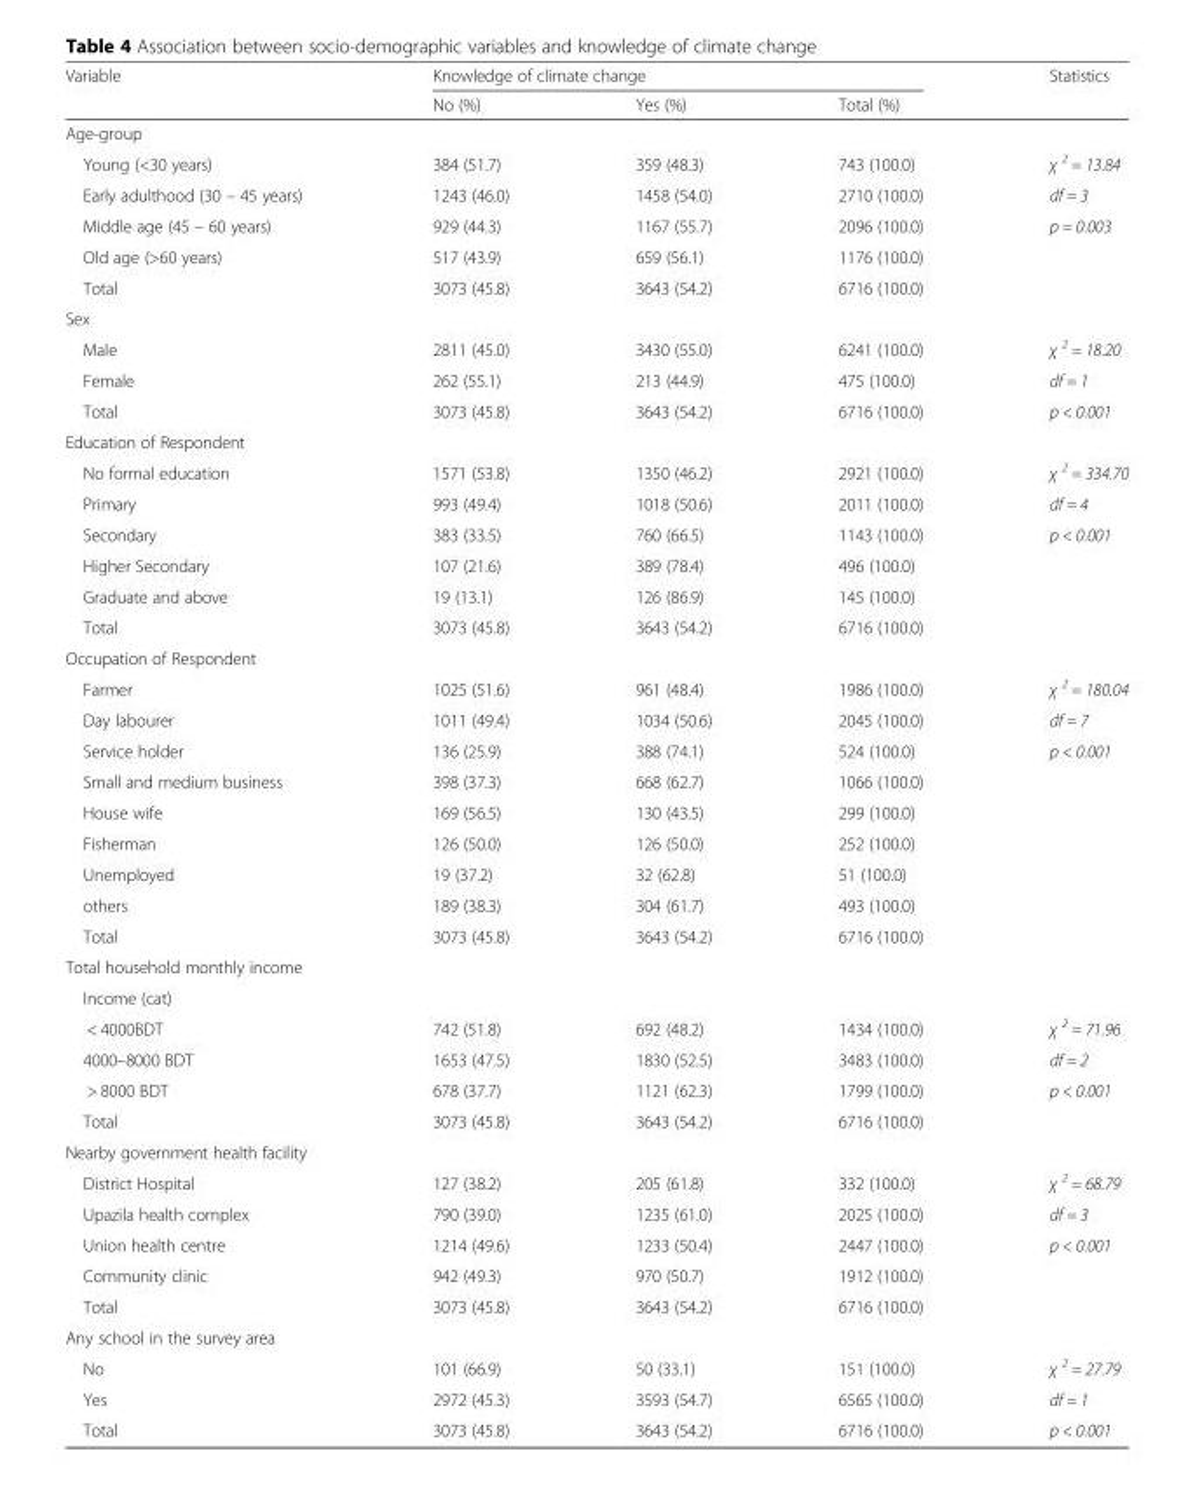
<table><thead><tr><td rowspan="2">Variable</td><td colspan="3">Knowledge of climate change</td><td rowspan="2">Statistics</td></tr><tr><td>No (%)</td><td>Yes (%)</td><td>Total (%)</td></tr></thead><tbody><tr><td colspan="5">Age-group</td></tr><tr><td>Young (&lt;30 years)</td><td>384 (51.7)</td><td>359 (48.3)</td><td>743 (100.0)</td><td>χ <sup>2</sup> = 13.84</td></tr><tr><td>Early adulthood (30 – 45 years)</td><td>1243 (46.0)</td><td>1458 (54.0)</td><td>2710 (100.0)</td><td>df = 3</td></tr><tr><td>Middle age (45 – 60 years)</td><td>929 (44.3)</td><td>1167 (55.7)</td><td>2096 (100.0)</td><td>p = 0.003</td></tr><tr><td>Old age (&gt;60 years)</td><td>517 (43.9)</td><td>659 (56.1)</td><td>1176 (100.0)</td><td></td></tr><tr><td>Total</td><td>3073 (45.8)</td><td>3643 (54.2)</td><td>6716 (100.0)</td><td></td></tr><tr><td colspan="5">Sex</td></tr><tr><td>Male</td><td>2811 (45.0)</td><td>3430 (55.0)</td><td>6241 (100.0)</td><td>χ <sup>2</sup> = 18.20</td></tr><tr><td>Female</td><td>262 (55.1)</td><td>213 (44.9)</td><td>475 (100.0)</td><td>df = 1</td></tr><tr><td>Total</td><td>3073 (45.8)</td><td>3643 (54.2)</td><td>6716 (100.0)</td><td>p &lt; 0.001</td></tr><tr><td colspan="5">Education of Respondent</td></tr><tr><td>No formal education</td><td>1571 (53.8)</td><td>1350 (46.2)</td><td>2921 (100.0)</td><td>χ <sup>2</sup> = 334.70</td></tr><tr><td>Primary</td><td>993 (49.4)</td><td>1018 (50.6)</td><td>2011 (100.0)</td><td>df = 4</td></tr><tr><td>Secondary</td><td>383 (33.5)</td><td>760 (66.5)</td><td>1143 (100.0)</td><td>p &lt; 0.001</td></tr><tr><td>Higher Secondary</td><td>107 (21.6)</td><td>389 (78.4)</td><td>496 (100.0)</td><td></td></tr><tr><td>Graduate and above</td><td>19 (13.1)</td><td>126 (86.9)</td><td>145 (100.0)</td><td></td></tr><tr><td>Total</td><td>3073 (45.8)</td><td>3643 (54.2)</td><td>6716 (100.0)</td><td></td></tr><tr><td colspan="5">Occupation of Respondent</td></tr><tr><td>Farmer</td><td>1025 (51.6)</td><td>961 (48.4)</td><td>1986 (100.0)</td><td>χ <sup>2</sup> = 180.04</td></tr><tr><td>Day labourer</td><td>1011 (49.4)</td><td>1034 (50.6)</td><td>2045 (100.0)</td><td>df = 7</td></tr><tr><td>Service holder</td><td>136 (25.9)</td><td>388 (74.1)</td><td>524 (100.0)</td><td>p &lt; 0.001</td></tr><tr><td>Small and medium business</td><td>398 (37.3)</td><td>668 (62.7)</td><td>1066 (100.0)</td><td></td></tr><tr><td>House wife</td><td>169 (56.5)</td><td>130 (43.5)</td><td>299 (100.0)</td><td></td></tr><tr><td>Fisherman</td><td>126 (50.0)</td><td>126 (50.0)</td><td>252 (100.0)</td><td></td></tr><tr><td>Unemployed</td><td>19 (37.2)</td><td>32 (62.8)</td><td>51 (100.0)</td><td></td></tr><tr><td>others</td><td>189 (38.3)</td><td>304 (61.7)</td><td>493 (100.0)</td><td></td></tr><tr><td>Total</td><td>3073 (45.8)</td><td>3643 (54.2)</td><td>6716 (100.0)</td><td></td></tr><tr><td colspan="5">Total household monthly income</td></tr><tr><td colspan="5">Income (cat)</td></tr><tr><td>&lt; 4000BDT</td><td>742 (51.8)</td><td>692 (48.2)</td><td>1434 (100.0)</td><td>χ <sup>2</sup> = 71.96</td></tr><tr><td>4000–8000 BDT</td><td>1653 (47.5)</td><td>1830 (52.5)</td><td>3483 (100.0)</td><td>df = 2</td></tr><tr><td>&gt; 8000 BDT</td><td>678 (37.7)</td><td>1121 (62.3)</td><td>1799 (100.0)</td><td>p &lt; 0.001</td></tr><tr><td>Total</td><td>3073 (45.8)</td><td>3643 (54.2)</td><td>6716 (100.0)</td><td></td></tr><tr><td colspan="5">Nearby government health facility</td></tr><tr><td>District Hospital</td><td>127 (38.2)</td><td>205 (61.8)</td><td>332 (100.0)</td><td>χ <sup>2</sup> = 68.79</td></tr><tr><td>Upazila health complex</td><td>790 (39.0)</td><td>1235 (61.0)</td><td>2025 (100.0)</td><td>df = 3</td></tr><tr><td>Union health centre</td><td>1214 (49.6)</td><td>1233 (50.4)</td><td>2447 (100.0)</td><td>p &lt; 0.001</td></tr><tr><td>Community clinic</td><td>942 (49.3)</td><td>970 (50.7)</td><td>1912 (100.0)</td><td></td></tr><tr><td>Total</td><td>3073 (45.8)</td><td>3643 (54.2)</td><td>6716 (100.0)</td><td></td></tr><tr><td colspan="5">Any school in the survey area</td></tr><tr><td>No</td><td>101 (66.9)</td><td>50 (33.1)</td><td>151 (100.0)</td><td>χ <sup>2</sup> = 27.79</td></tr><tr><td>Yes</td><td>2972 (45.3)</td><td>3593 (54.7)</td><td>6565 (100.0)</td><td>df = 1</td></tr><tr><td>Total</td><td>3073 (45.8)</td><td>3643 (54.2)</td><td>6716 (100.0)</td><td>p &lt; 0.001</td></tr></tbody></table>